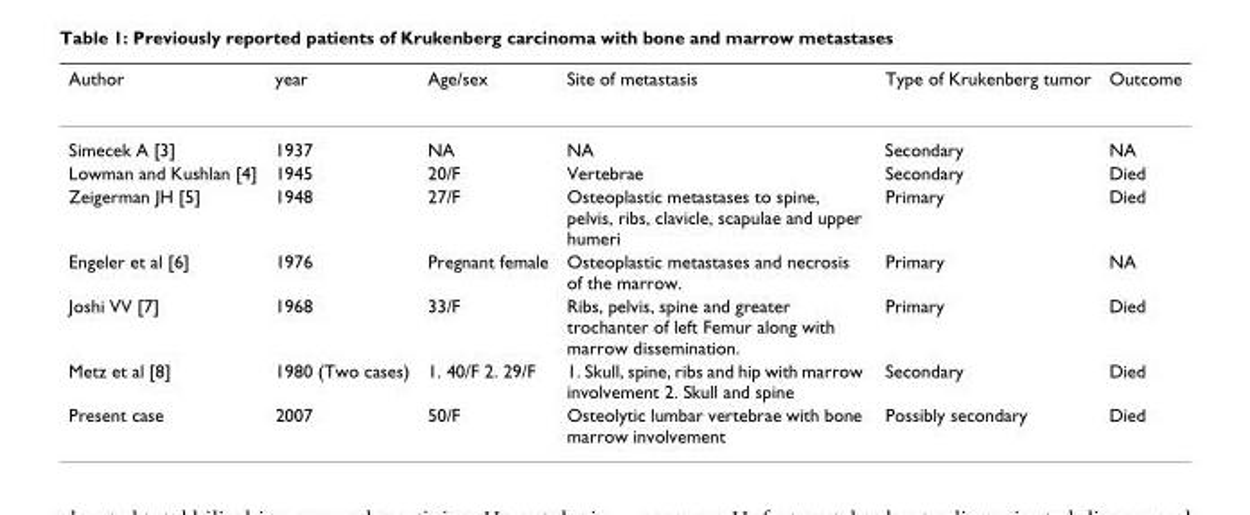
<table><thead><tr><td>Author</td><td>year</td><td>Age/sex</td><td>Site of metastasis</td><td>Type of Krukenberg tumor</td><td>Outcome</td></tr></thead><tbody><tr><td>Simecek A [3]</td><td>1937</td><td>NA</td><td>NA</td><td>Secondary</td><td>NA</td></tr><tr><td>Lowman and Kushlan [4]</td><td>1945</td><td>20/F</td><td>Vertebrae</td><td>Secondary</td><td>Died</td></tr><tr><td>Zeigerman JH [5]</td><td>1948</td><td>27/F</td><td>Osteoplastic metastases to spine, pelvis, ribs, clavicle, scapulae and upper humeri</td><td>Primary</td><td>Died</td></tr><tr><td>Engeler et al [6]</td><td>1976</td><td>Pregnant female</td><td>Osteoplastic metastases and necrosis of the marrow.</td><td>Primary</td><td>NA</td></tr><tr><td>Joshi VV [7]</td><td>1968</td><td>33/F</td><td>Ribs, pelvis, spine and greater trochanter of left Femur along with marrow dissemination.</td><td>Primary</td><td>Died</td></tr><tr><td>Metz et al [8]</td><td>1980 (Two cases)</td><td>1. 40/F 2. 29/F</td><td>1. Skull, spine, ribs and hip with marrow involvement 2. Skull and spine</td><td>Secondary</td><td>Died</td></tr><tr><td>Present case</td><td>2007</td><td>50/F</td><td>Osteolytic lumbar vertebrae with bone marrow involvement</td><td>Possibly secondary</td><td>Died</td></tr></tbody></table>